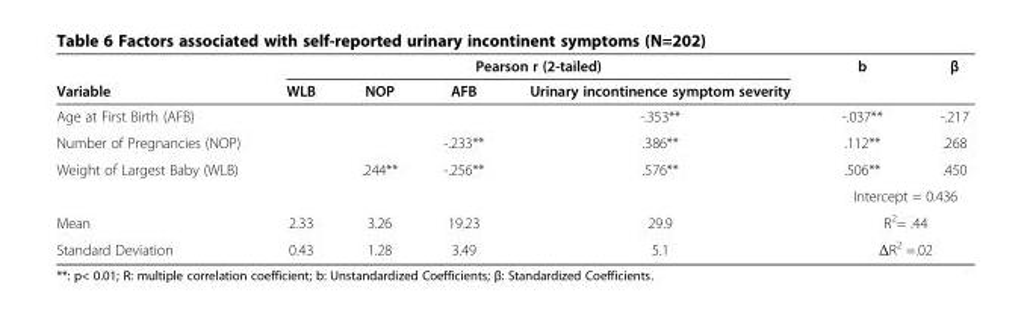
<table><thead><tr><td rowspan="2">Variable</td><td colspan="4">Pearson r (2-tailed)</td><td rowspan="2">b</td><td rowspan="2">β</td></tr><tr><td>WLB</td><td>NOP</td><td>AFB</td><td>Urinary incontinence symptom severity</td></tr></thead><tbody><tr><td>Age at First Birth (AFB)</td><td></td><td></td><td></td><td>-.353**</td><td>-.037**</td><td>-.217</td></tr><tr><td>Number of Pregnancies (NOP)</td><td></td><td></td><td>-.233**</td><td>.386**</td><td>.112**</td><td>.268</td></tr><tr><td rowspan="2">Weight of Largest Baby (WLB)</td><td></td><td>.244**</td><td>-.256**</td><td>.576**</td><td>.506**</td><td>.450</td></tr><tr><td></td><td></td><td></td><td></td><td colspan="2">Intercept = 0.436</td></tr><tr><td>Mean</td><td>2.33</td><td>3.26</td><td>19.23</td><td>29.9</td><td colspan="2">R<sup>2</sup>= .44</td></tr><tr><td>Standard Deviation</td><td>0.43</td><td>1.28</td><td>3.49</td><td>5.1</td><td colspan="2">ΔR<sup>2</sup> =.02</td></tr></tbody></table>